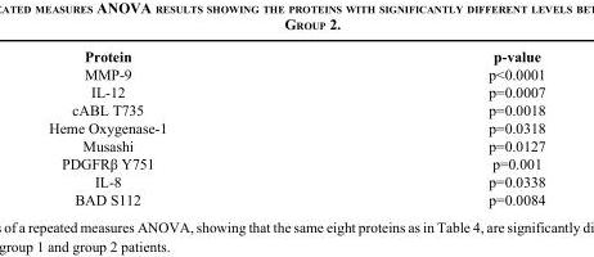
<table><thead><tr><td>Protein</td><td>p-value</td></tr></thead><tbody><tr><td>MMP-9</td><td>p&lt;0.0001</td></tr><tr><td>IL-12</td><td>p=0.0007</td></tr><tr><td>cABL T735</td><td>p=0.0018</td></tr><tr><td>Heme Oxygenase-1</td><td>p=0.0318</td></tr><tr><td>Musashi</td><td>p=0.0127</td></tr><tr><td>PDGFRβ Y751</td><td>p=0.001</td></tr><tr><td>IL-8</td><td>p=0.0338</td></tr><tr><td>BAD S112</td><td>p=0.0084</td></tr></tbody></table>